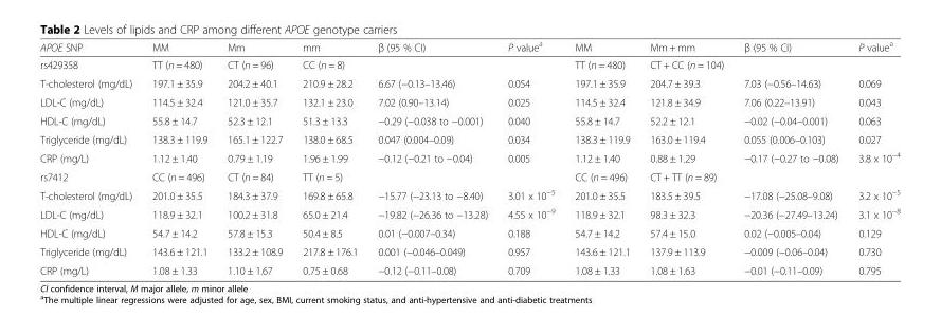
<table><thead><tr><td>APOE SNP</td><td>MM</td><td>Mm</td><td>mm</td><td>β (95 % CI)</td><td>P value<sup>a</sup></td><td>MM</td><td>Mm + mm</td><td>β (95 % CI)</td><td>P value<sup>a</sup></td></tr></thead><tbody><tr><td>rs429358</td><td>TT (n = 480)</td><td>CT (n = 96)</td><td>CC (n = 8)</td><td></td><td></td><td>TT (n = 480)</td><td>CT + CC (n = 104)</td><td></td><td></td></tr><tr><td>T-cholesterol (mg/dL)</td><td>197.1 ± 35.9</td><td>204.2 ± 40.1</td><td>210.9 ± 28.2</td><td>6.67 (−0.13–13.46)</td><td>0.054</td><td>197.1 ± 35.9</td><td>204.7 ± 39.3</td><td>7.03 (−0.56–14.63)</td><td>0.069</td></tr><tr><td>LDL-C (mg/dL)</td><td>114.5 ± 32.4</td><td>121.0 ± 35.7</td><td>132.1 ± 23.0</td><td>7.02 (0.90–13.14)</td><td>0.025</td><td>114.5 ± 32.4</td><td>121.8 ± 34.9</td><td>7.06 (0.22–13.91)</td><td>0.043</td></tr><tr><td>HDL-C (mg/dL)</td><td>55.8 ± 14.7</td><td>52.3 ± 12.1</td><td>51.3 ± 13.3</td><td>−0.29 (−0.038 to −0.001)</td><td>0.040</td><td>55.8 ± 14.7</td><td>52.2 ± 12.1</td><td>−0.02 (−0.04–0.001)</td><td>0.063</td></tr><tr><td>Triglyceride (mg/dL)</td><td>138.3 ± 119.9</td><td>165.1 ± 122.7</td><td>138.0 ± 68.5</td><td>0.047 (0.004–0.09)</td><td>0.034</td><td>138.3 ± 119.9</td><td>163.0 ± 119.4</td><td>0.055 (0.006–0.103)</td><td>0.027</td></tr><tr><td>CRP (mg/L)</td><td>1.12 ± 1.40</td><td>0.79 ± 1.19</td><td>1.96 ± 1.99</td><td>−0.12 (−0.21 to −0.04)</td><td>0.005</td><td>1.12 ± 1.40</td><td>0.88 ± 1.29</td><td>−0.17 (−0.27 to −0.08)</td><td>3.8 x 10<sup>−4</sup></td></tr><tr><td>rs7412</td><td>CC (n = 496)</td><td>CT (n = 84)</td><td>TT (n = 5)</td><td></td><td></td><td>CC (n = 496)</td><td>CT + TT (n = 89)</td><td></td><td></td></tr><tr><td>T-cholesterol (mg/dL)</td><td>201.0 ± 35.5</td><td>184.3 ± 37.9</td><td>169.8 ± 65.8</td><td>−15.77 (−23.13 to −8.40)</td><td>3.01 x 10<sup>−5</sup></td><td>201.0 ± 35.5</td><td>183.5 ± 39.5</td><td>−17.08 (−25.08–9.08)</td><td>3.2 x 10<sup>−5</sup></td></tr><tr><td>LDL-C (mg/dL)</td><td>118.9 ± 32.1</td><td>100.2 ± 31.8</td><td>65.0 ± 21.4</td><td>−19.82 (−26.36 to −13.28)</td><td>4.55 x 10<sup>−9</sup></td><td>118.9 ± 32.1</td><td>98.3 ± 32.3</td><td>−20.36 (−27.49–13.24)</td><td>3.1 x 10<sup>−8</sup></td></tr><tr><td>HDL-C (mg/dL)</td><td>54.7 ± 14.2</td><td>57.8 ± 15.3</td><td>50.4 ± 8.5</td><td>0.01 (−0.007–0.34)</td><td>0.188</td><td>54.7 ± 14.2</td><td>57.4 ± 15.0</td><td>0.02 (−0.005–0.04)</td><td>0.129</td></tr><tr><td>Triglyceride (mg/dL)</td><td>143.6 ± 121.1</td><td>133.2 ± 108.9</td><td>217.8 ± 176.1</td><td>0.001 (−0.046–0.049)</td><td>0.957</td><td>143.6 ± 121.1</td><td>137.9 ± 113.9</td><td>−0.009 (−0.06–0.04)</td><td>0.730</td></tr><tr><td>CRP (mg/L)</td><td>1.08 ± 1.33</td><td>1.10 ± 1.67</td><td>0.75 ± 0.68</td><td>−0.12 (−0.11–0.08)</td><td>0.709</td><td>1.08 ± 1.33</td><td>1.08 ± 1.63</td><td>−0.01 (−0.11–0.09)</td><td>0.795</td></tr></tbody></table>